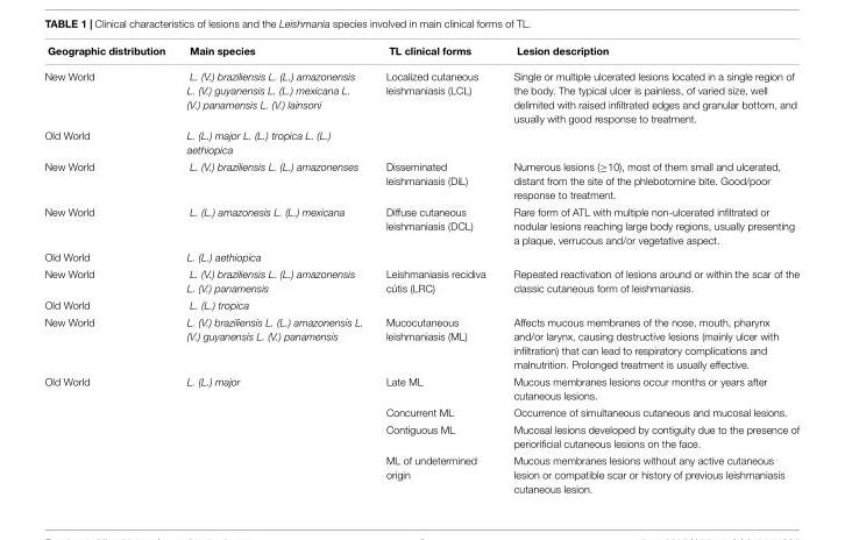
<table><thead><tr><td>Geographic distribution</td><td>Main species</td><td>TL clinical forms</td><td>Lesion description</td></tr></thead><tbody><tr><td>New World</td><td>L. (V.) braziliensis L. (L.) amazonensis L. (V.) guyanensis L. (L.) mexicana L. (V.) panamensis L. (V.) lainsoni</td><td>Localized cutaneous leishmaniasis (LCL)</td><td>Single or multiple ulcerated lesions located in a single region of the body. The typical ulcer is painless, of varied size, well delimited with raised infiltrated edges and granular bottom, and usually with good response to treatment.</td></tr><tr><td>Old World</td><td>L. (L.) major L. (L.) tropica L. (L.) aethiopica</td><td></td><td></td></tr><tr><td>New World</td><td>L. (V.) braziliensis L. (L.) amazonenses</td><td>Disseminated leishmaniasis (DiL)</td><td>Numerous lesions (≥10), most of them small and ulcerated, distant from the site of the phlebotomine bite. Good/poor response to treatment.</td></tr><tr><td>New World</td><td>L. (L.) amazonesis L. (L.) mexicana</td><td>Diffuse cutaneous leishmaniasis (DCL)</td><td>Rare form of ATL with multiple non-ulcerated infiltrated or nodular lesions reaching large body regions, usually presenting a plaque, verrucous and/or vegetative aspect.</td></tr><tr><td>Old World</td><td>L. (L.) aethiopica</td><td></td><td></td></tr><tr><td>New World</td><td>L. (V.) braziliensis L. (L.) amazonensis L. (V.) panamensis</td><td>Leishmaniasis recidiva cútis (LRC)</td><td>Repeated reactivation of lesions around or within the scar of the classic cutaneous form of leishmaniasis.</td></tr><tr><td>Old World</td><td>L. (L.) tropica</td><td></td><td></td></tr><tr><td>New World</td><td>L. (V.) braziliensis L. (L.) amazonensis L. (V.) guyanensis L. (V.) panamensis</td><td>Mucocutaneous leishmaniasis (ML)</td><td>Affects mucous membranes of the nose, mouth, pharynx and/or larynx, causing destructive lesions (mainly ulcer with infiltration) that can lead to respiratory complications and malnutrition. Prolonged treatment is usually effective.</td></tr><tr><td rowspan="4">Old World</td><td>L. (L.) major</td><td>Late ML</td><td>Mucous membranes lesions occur months or years after cutaneous lesions.</td></tr><tr><td></td><td>Concurrent ML</td><td>Occurrence of simultaneous cutaneous and mucosal lesions.</td></tr><tr><td></td><td>Contiguous ML</td><td>Mucosal lesions developed by contiguity due to the presence of periorificial cutaneous lesions on the face.</td></tr><tr><td></td><td>ML of undetermined origin</td><td>Mucous membranes lesions without any active cutaneous lesion or compatible scar or history of previous leishmaniasis cutaneous lesion.</td></tr></tbody></table>